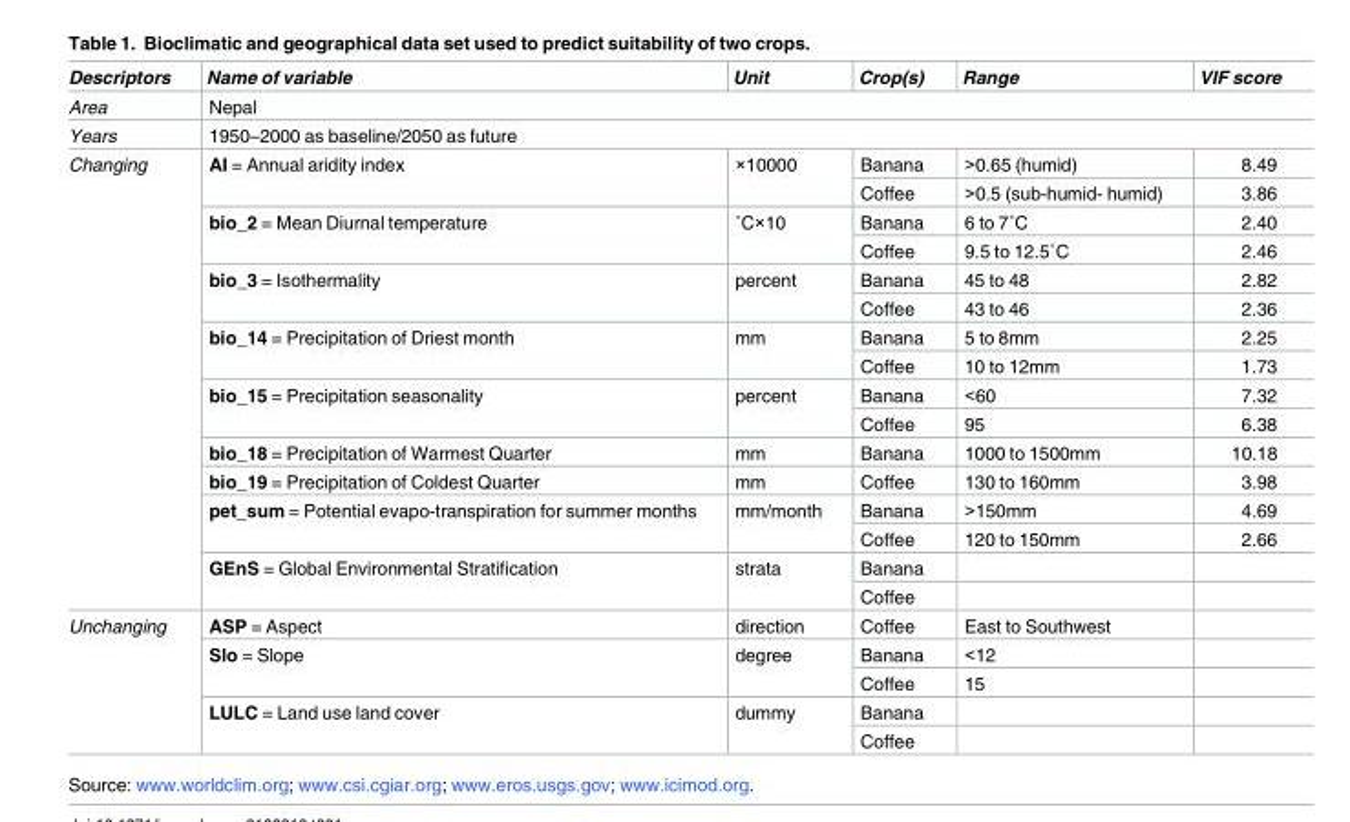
<table><thead><tr><td>Descriptors</td><td>Name of variable</td><td>Unit</td><td>Crop(s)</td><td>Range</td><td>VIF score</td></tr></thead><tbody><tr><td>Area</td><td colspan="5">Nepal</td></tr><tr><td>Years</td><td colspan="5">1950–2000 as baseline/2050 as future</td></tr><tr><td rowspan="16">Changing</td><td rowspan="2">AI = Annual aridity index</td><td rowspan="2">×10000</td><td>Banana</td><td>&gt;0.65 (humid)</td><td>8.49</td></tr><tr><td>Coffee</td><td>&gt;0.5 (sub-humid- humid)</td><td>3.86</td></tr><tr><td rowspan="2">bio_2 = Mean Diurnal temperature</td><td rowspan="2">˚C×10</td><td>Banana</td><td>6 to 7˚C</td><td>2.40</td></tr><tr><td>Coffee</td><td>9.5 to 12.5˚C</td><td>2.46</td></tr><tr><td rowspan="2">bio_3 = Isothermality</td><td rowspan="2">percent</td><td>Banana</td><td>45 to 48</td><td>2.82</td></tr><tr><td>Coffee</td><td>43 to 46</td><td>2.36</td></tr><tr><td rowspan="2">bio_14 = Precipitation of Driest month</td><td rowspan="2">mm</td><td>Banana</td><td>5 to 8mm</td><td>2.25</td></tr><tr><td>Coffee</td><td>10 to 12mm</td><td>1.73</td></tr><tr><td rowspan="2">bio_15 = Precipitation seasonality</td><td rowspan="2">percent</td><td>Banana</td><td>&lt;60</td><td>7.32</td></tr><tr><td>Coffee</td><td>95</td><td>6.38</td></tr><tr><td>bio_18 = Precipitation of Warmest Quarter</td><td>mm</td><td>Banana</td><td>1000 to 1500mm</td><td>10.18</td></tr><tr><td>bio_19 = Precipitation of Coldest Quarter</td><td>mm</td><td>Coffee</td><td>130 to 160mm</td><td>3.98</td></tr><tr><td rowspan="2">pet_sum = Potential evapo-transpiration for summer months</td><td rowspan="2">mm/month</td><td>Banana</td><td>&gt;150mm</td><td>4.69</td></tr><tr><td>Coffee</td><td>120 to 150mm</td><td>2.66</td></tr><tr><td rowspan="2">GEnS = Global Environmental Stratification</td><td rowspan="2">strata</td><td>Banana</td><td></td><td></td></tr><tr><td>Coffee</td><td></td><td></td></tr><tr><td rowspan="5">Unchanging</td><td>ASP = Aspect</td><td>direction</td><td>Coffee</td><td>East to Southwest</td><td></td></tr><tr><td rowspan="2">Slo = Slope</td><td rowspan="2">degree</td><td>Banana</td><td>&lt;12</td><td></td></tr><tr><td>Coffee</td><td>15</td><td></td></tr><tr><td rowspan="2">LULC = Land use land cover</td><td rowspan="2">dummy</td><td>Banana</td><td></td><td></td></tr><tr><td>Coffee</td><td></td><td></td></tr></tbody></table>